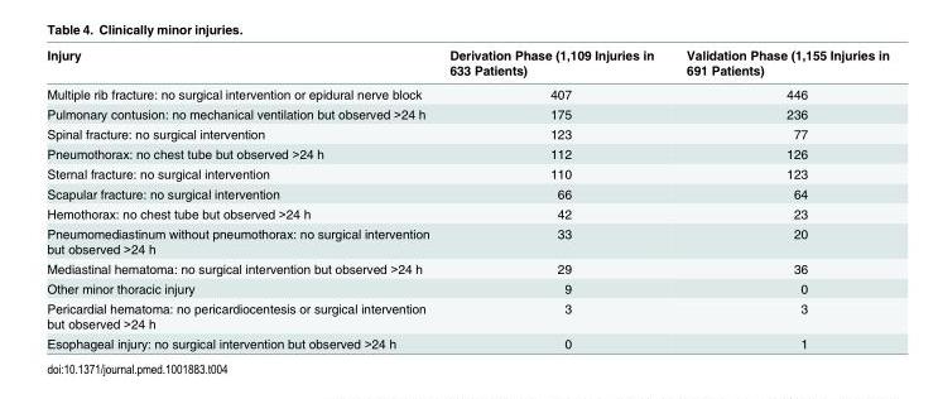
<table><thead><tr><td>Injury</td><td>Derivation Phase (1,109 Injuries in 633 Patients)</td><td>Validation Phase (1,155 Injuries in 691 Patients)</td></tr></thead><tbody><tr><td>Multiple rib fracture: no surgical intervention or epidural nerve block</td><td>407</td><td>446</td></tr><tr><td>Pulmonary contusion: no mechanical ventilation but observed &gt;24 h</td><td>175</td><td>236</td></tr><tr><td>Spinal fracture: no surgical intervention</td><td>123</td><td>77</td></tr><tr><td>Pneumothorax: no chest tube but observed &gt;24 h</td><td>112</td><td>126</td></tr><tr><td>Sternal fracture: no surgical intervention</td><td>110</td><td>123</td></tr><tr><td>Scapular fracture: no surgical intervention</td><td>66</td><td>64</td></tr><tr><td>Hemothorax: no chest tube but observed &gt;24 h</td><td>42</td><td>23</td></tr><tr><td>Pneumomediastinum without pneumothorax: no surgical intervention but observed &gt;24 h</td><td>33</td><td>20</td></tr><tr><td>Mediastinal hematoma: no surgical intervention but observed &gt;24 h</td><td>29</td><td>36</td></tr><tr><td>Other minor thoracic injury</td><td>9</td><td>0</td></tr><tr><td>Pericardial hematoma: no pericardiocentesis or surgical intervention but observed &gt;24 h</td><td>3</td><td>3</td></tr><tr><td>Esophageal injury: no surgical intervention but observed &gt;24 h</td><td>0</td><td>1</td></tr></tbody></table>